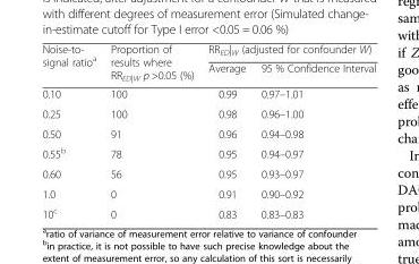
<table><thead><tr><td rowspan="2">Noise-to- signal ratio<sup>a</sup></td><td rowspan="2">Proportion of results where RR<sub>ED|W</sub> p &gt;0.05 (%)</td><td colspan="2">RR<sub>ED</sub>|<sub>W</sub> (adjusted for confounder W)</td></tr><tr><td>Average</td><td>95 % Confidence Interval</td></tr></thead><tbody><tr><td>0.10</td><td>100</td><td>0.99</td><td>0.97–1.01</td></tr><tr><td>0.25</td><td>100</td><td>0.98</td><td>0.96–1.00</td></tr><tr><td>0.50</td><td>91</td><td>0.96</td><td>0.94–0.98</td></tr><tr><td>0.55<sup>b</sup></td><td>78</td><td>0.95</td><td>0.94–0.97</td></tr><tr><td>0.60</td><td>56</td><td>0.95</td><td>0.93–0.97</td></tr><tr><td>1.0</td><td>0</td><td>0.91</td><td>0.90–0.92</td></tr><tr><td>10<sup>c</sup></td><td>0</td><td>0.83</td><td>0.83–0.83</td></tr></tbody></table>